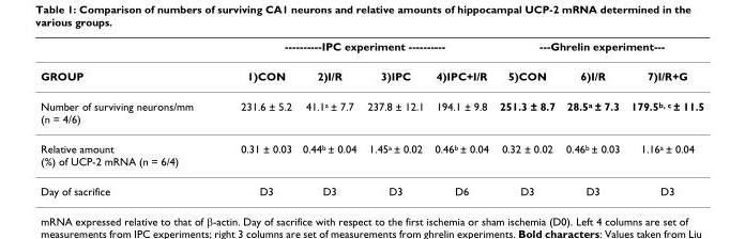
<table><thead><tr><td rowspan="2">GROUP</td><td colspan="4">----------IPC experiment ----------</td><td colspan="3">---Ghrelin experiment---</td></tr><tr><td>1)CON</td><td>2)I/R</td><td>3)IPC</td><td>4)IPC+I/R</td><td>5)CON</td><td>6)I/R</td><td>7)I/R+G</td></tr></thead><tbody><tr><td>Number of surviving neurons/mm (n = 4/6)</td><td>231.6 ± 5.2</td><td>41.1<sup>a</sup> ± 7.7</td><td>237.8 ± 12.1</td><td>194.1 ± 9.8</td><td>251.3 ± 8.7</td><td>28.5<sup>a</sup> ± 7.3</td><td>179.5<sup>b, c</sup> ± 11.5</td></tr><tr><td>Relative amount (%) of UCP-2 mRNA (n = 6/4)</td><td>0.31 ± 0.03</td><td>0.44<sup>b</sup> ± 0.04</td><td>1.45<sup>a</sup> ± 0.02</td><td>0.46<sup>b</sup> ± 0.04</td><td>0.32 ± 0.02</td><td>0.46<sup>b</sup> ± 0.03</td><td>1.16<sup>a</sup> ± 0.04</td></tr><tr><td>Day of sacrifice</td><td>D3</td><td>D3</td><td>D3</td><td>D6</td><td>D3</td><td>D3</td><td>D3</td></tr></tbody></table>